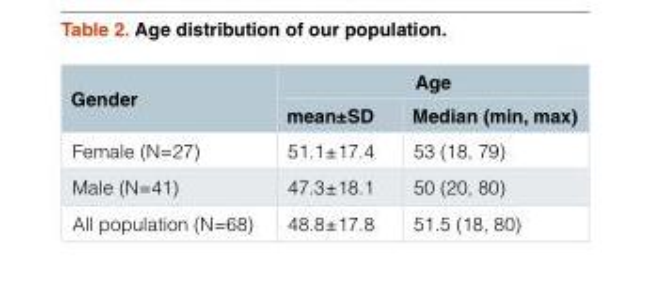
<table><thead><tr><td rowspan="2">Gender</td><td colspan="2">Age</td></tr><tr><td>mean±SD</td><td>Median (min, max)</td></tr></thead><tbody><tr><td>Female (N=27)</td><td>51.1±17.4</td><td>53 (18, 79)</td></tr><tr><td>Male (N=41)</td><td>47.3±18.1</td><td>50 (20, 80)</td></tr><tr><td>All population (N=68)</td><td>48.8±17.8</td><td>51.5 (18, 80)</td></tr></tbody></table>